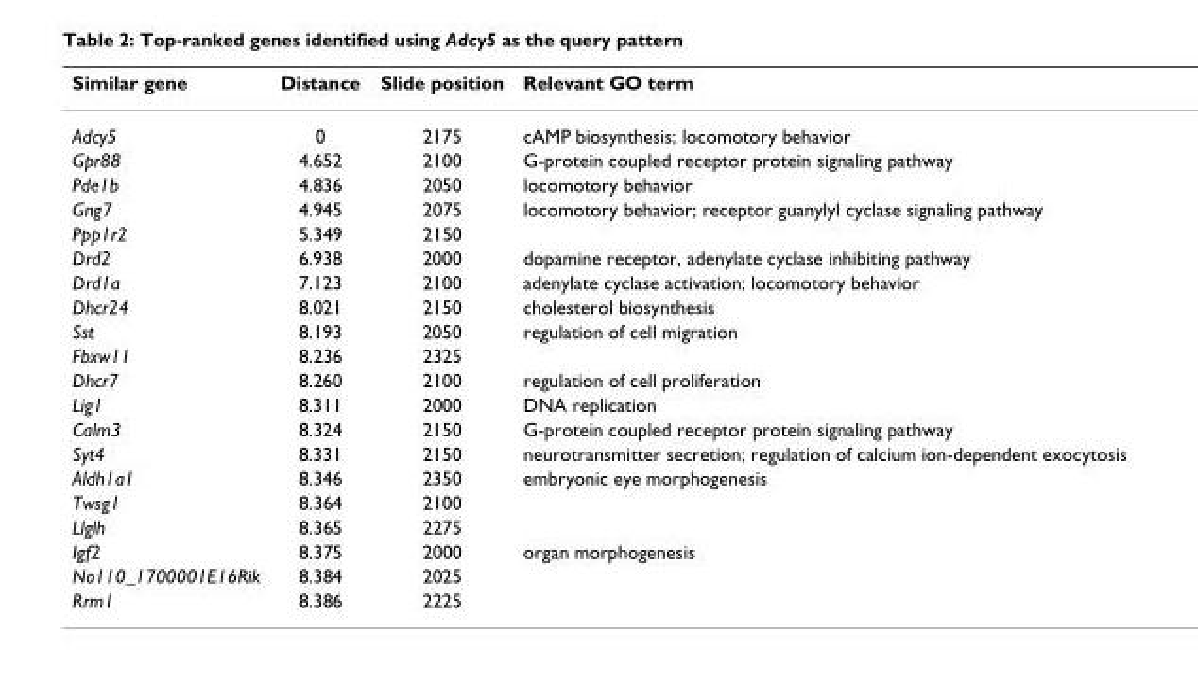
<table><thead><tr><td>Similar gene</td><td>Distance</td><td>Slide position</td><td>Relevant GO term</td></tr></thead><tbody><tr><td>Adcy5</td><td>0</td><td>2175</td><td>cAMP biosynthesis; locomotory behavior</td></tr><tr><td>Gpr88</td><td>4.652</td><td>2100</td><td>G-protein coupled receptor protein signaling pathway</td></tr><tr><td>Pde1b</td><td>4.836</td><td>2050</td><td>locomotory behavior</td></tr><tr><td>Gng7</td><td>4.945</td><td>2075</td><td>locomotory behavior; receptor guanylyl cyclase signaling pathway</td></tr><tr><td>Ppp1r2</td><td>5.349</td><td>2150</td><td></td></tr><tr><td>Drd2</td><td>6.938</td><td>2000</td><td>dopamine receptor, adenylate cyclase inhibiting pathway</td></tr><tr><td>Drd1a</td><td>7.123</td><td>2100</td><td>adenylate cyclase activation; locomotory behavior</td></tr><tr><td>Dhcr24</td><td>8.021</td><td>2150</td><td>cholesterol biosynthesis</td></tr><tr><td>Sst</td><td>8.193</td><td>2050</td><td>regulation of cell migration</td></tr><tr><td>Fbxw11</td><td>8.236</td><td>2325</td><td></td></tr><tr><td>Dhcr7</td><td>8.260</td><td>2100</td><td>regulation of cell proliferation</td></tr><tr><td>Lig1</td><td>8.311</td><td>2000</td><td>DNA replication</td></tr><tr><td>Calm3</td><td>8.324</td><td>2150</td><td>G-protein coupled receptor protein signaling pathway</td></tr><tr><td>Syt4</td><td>8.331</td><td>2150</td><td>neurotransmitter secretion; regulation of calcium ion-dependent exocytosis</td></tr><tr><td>Aldh1a1</td><td>8.346</td><td>2350</td><td>embryonic eye morphogenesis</td></tr><tr><td>Twsg1</td><td>8.364</td><td>2100</td><td></td></tr><tr><td>Llglh</td><td>8.365</td><td>2275</td><td></td></tr><tr><td>Igf2</td><td>8.375</td><td>2000</td><td>organ morphogenesis</td></tr><tr><td>No110_1700001E16Rik</td><td>8.384</td><td>2025</td><td></td></tr><tr><td>Rrm1</td><td>8.386</td><td>2225</td><td></td></tr></tbody></table>